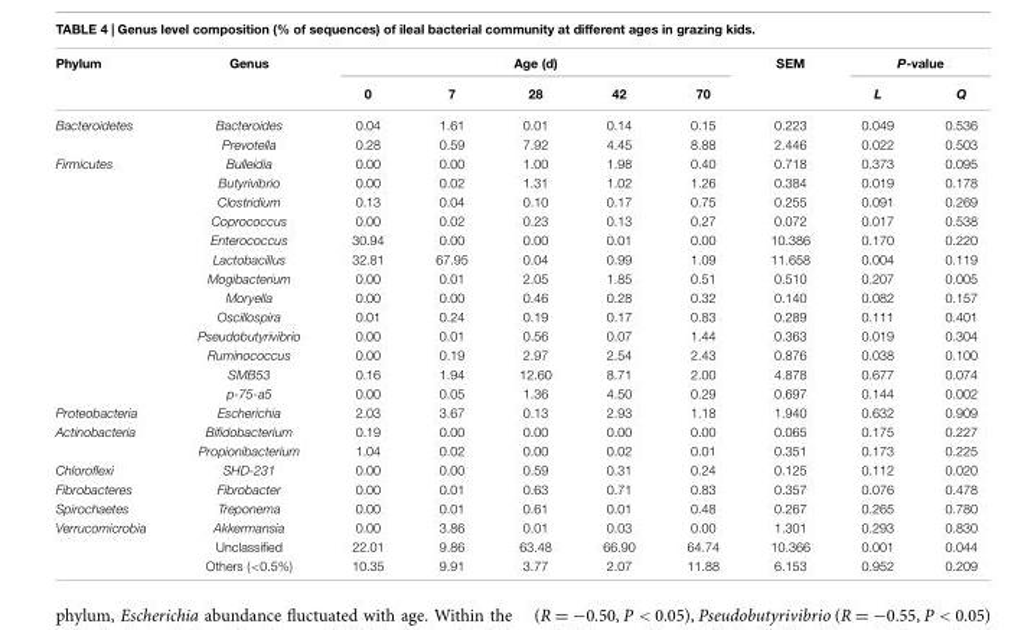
<table><thead><tr><td rowspan="2">Phylum</td><td rowspan="2">Genus</td><td colspan="5">Age (d)</td><td rowspan="2">SEM</td><td colspan="2">P-value</td></tr><tr><td>0</td><td>7</td><td>28</td><td>42</td><td>70</td><td>L</td><td>Q</td></tr></thead><tbody><tr><td rowspan="2">Bacteroidetes</td><td>Bacteroides</td><td>0.04</td><td>1.61</td><td>0.01</td><td>0.14</td><td>0.15</td><td>0.223</td><td>0.049</td><td>0.536</td></tr><tr><td>Prevotella</td><td>0.28</td><td>0.59</td><td>7.92</td><td>4.45</td><td>8.88</td><td>2.446</td><td>0.022</td><td>0.503</td></tr><tr><td rowspan="13">Firmicutes</td><td>Bulleidia</td><td>0.00</td><td>0.00</td><td>1.00</td><td>1.98</td><td>0.40</td><td>0.718</td><td>0.373</td><td>0.095</td></tr><tr><td>Butyrivibrio</td><td>0.00</td><td>0.02</td><td>1.31</td><td>1.02</td><td>1.26</td><td>0.384</td><td>0.019</td><td>0.178</td></tr><tr><td>Clostridium</td><td>0.13</td><td>0.04</td><td>0.10</td><td>0.17</td><td>0.75</td><td>0.255</td><td>0.091</td><td>0.269</td></tr><tr><td>Coprococcus</td><td>0.00</td><td>0.02</td><td>0.23</td><td>0.13</td><td>0.27</td><td>0.072</td><td>0.017</td><td>0.538</td></tr><tr><td>Enterococcus</td><td>30.94</td><td>0.00</td><td>0.00</td><td>0.01</td><td>0.00</td><td>10.386</td><td>0.170</td><td>0.220</td></tr><tr><td>Lactobacillus</td><td>32.81</td><td>67.95</td><td>0.04</td><td>0.99</td><td>1.09</td><td>11.658</td><td>0.004</td><td>0.119</td></tr><tr><td>Mogibacterium</td><td>0.00</td><td>0.01</td><td>2.05</td><td>1.85</td><td>0.51</td><td>0.510</td><td>0.207</td><td>0.005</td></tr><tr><td>Moryella</td><td>0.00</td><td>0.00</td><td>0.46</td><td>0.28</td><td>0.32</td><td>0.140</td><td>0.082</td><td>0.157</td></tr><tr><td>Oscillospira</td><td>0.01</td><td>0.24</td><td>0.19</td><td>0.17</td><td>0.83</td><td>0.289</td><td>0.111</td><td>0.401</td></tr><tr><td>Pseudobutyrivibrio</td><td>0.00</td><td>0.01</td><td>0.56</td><td>0.07</td><td>1.44</td><td>0.363</td><td>0.019</td><td>0.304</td></tr><tr><td>Ruminococcus</td><td>0.00</td><td>0.19</td><td>2.97</td><td>2.54</td><td>2.43</td><td>0.876</td><td>0.038</td><td>0.100</td></tr><tr><td>SMB53</td><td>0.16</td><td>1.94</td><td>12.60</td><td>8.71</td><td>2.00</td><td>4.878</td><td>0.677</td><td>0.074</td></tr><tr><td>p-75-a5</td><td>0.00</td><td>0.05</td><td>1.36</td><td>4.50</td><td>0.29</td><td>0.697</td><td>0.144</td><td>0.002</td></tr><tr><td>Proteobacteria</td><td>Escherichia</td><td>2.03</td><td>3.67</td><td>0.13</td><td>2.93</td><td>1.18</td><td>1.940</td><td>0.632</td><td>0.909</td></tr><tr><td rowspan="2">Actinobacteria</td><td>Bifidobacterium</td><td>0.19</td><td>0.00</td><td>0.00</td><td>0.00</td><td>0.00</td><td>0.065</td><td>0.175</td><td>0.227</td></tr><tr><td>Propionibacterium</td><td>1.04</td><td>0.02</td><td>0.00</td><td>0.02</td><td>0.01</td><td>0.351</td><td>0.173</td><td>0.225</td></tr><tr><td>Chloroflexi</td><td>SHD-231</td><td>0.00</td><td>0.00</td><td>0.59</td><td>0.31</td><td>0.24</td><td>0.125</td><td>0.112</td><td>0.020</td></tr><tr><td>Fibrobacteres</td><td>Fibrobacter</td><td>0.00</td><td>0.01</td><td>0.63</td><td>0.71</td><td>0.83</td><td>0.357</td><td>0.076</td><td>0.478</td></tr><tr><td>Spirochaetes</td><td>Treponema</td><td>0.00</td><td>0.01</td><td>0.61</td><td>0.01</td><td>0.48</td><td>0.267</td><td>0.265</td><td>0.780</td></tr><tr><td rowspan="3">Verrucomicrobia</td><td>Akkermansia</td><td>0.00</td><td>3.86</td><td>0.01</td><td>0.03</td><td>0.00</td><td>1.301</td><td>0.293</td><td>0.830</td></tr><tr><td>Unclassified</td><td>22.01</td><td>9.86</td><td>63.48</td><td>66.90</td><td>64.74</td><td>10.366</td><td>0.001</td><td>0.044</td></tr><tr><td>Others (&lt;0.5%)</td><td>10.35</td><td>9.91</td><td>3.77</td><td>2.07</td><td>11.88</td><td>6.153</td><td>0.952</td><td>0.209</td></tr></tbody></table>